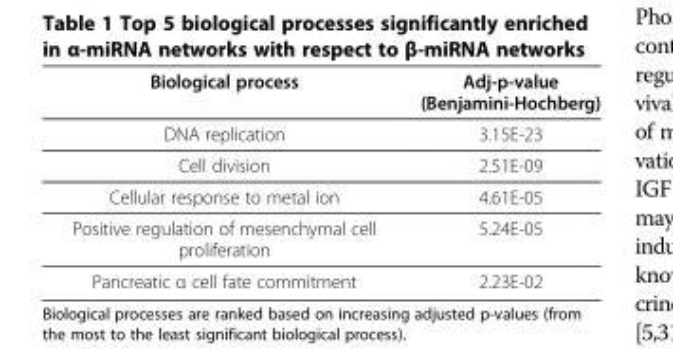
<table><thead><tr><td>Biological process</td><td>Adj-p-value (Benjamini-Hochberg)</td></tr></thead><tbody><tr><td>DNA replication</td><td>3.15E-23</td></tr><tr><td>Cell division</td><td>2.51E-09</td></tr><tr><td>Cellular response to metal ion</td><td>4.61E-05</td></tr><tr><td>Positive regulation of mesenchymal cell proliferation</td><td>5.24E-05</td></tr><tr><td>Pancreatic α cell fate commitment</td><td>2.23E-02</td></tr></tbody></table>